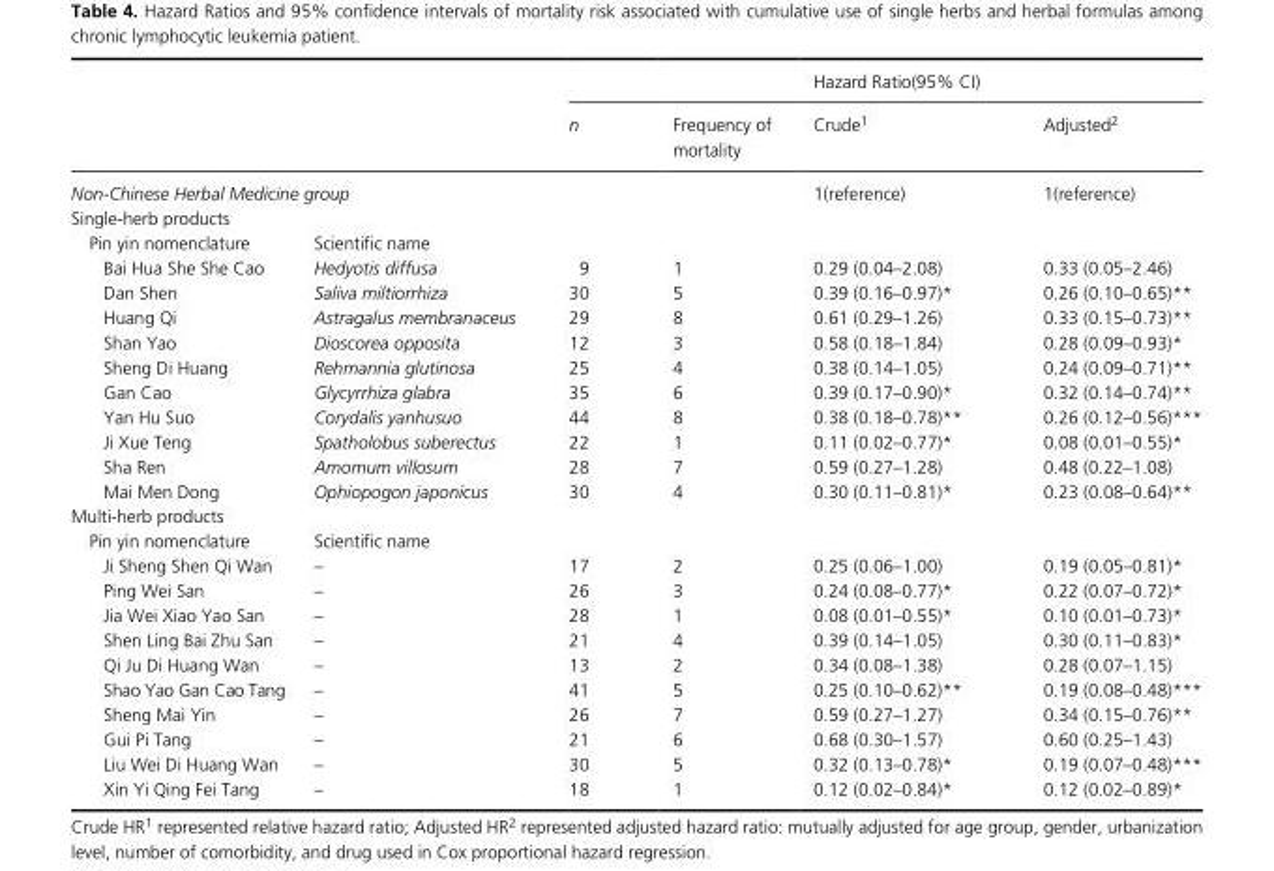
<table><thead><tr><td rowspan="2"></td><td rowspan="2"></td><td rowspan="2">n</td><td rowspan="2">Frequency of mortality</td><td colspan="2">Hazard Ratio(95% CI)</td></tr><tr><td>Crude<sup>1</sup></td><td>Adjusted<sup>2</sup></td></tr></thead><tbody><tr><td colspan="2">Non-Chinese Herbal Medicine group</td><td></td><td></td><td>1(reference)</td><td>1(reference)</td></tr><tr><td colspan="6">Single- herb products</td></tr><tr><td>Pin yin nomenclature</td><td>Scientific name</td><td></td><td></td><td></td><td></td></tr><tr><td>Bai Hua She She Cao</td><td>Hedyotis diffusa</td><td>9</td><td>1</td><td>0.29 (0.04–2.08)</td><td>0.33 (0.05–2.46)</td></tr><tr><td>Dan Shen</td><td>Saliva miltiorrhiza</td><td>30</td><td>5</td><td>0.39 (0.16–0.97)*</td><td>0.26 (0.10–0.65)**</td></tr><tr><td>Huang Qi</td><td>Astragalus membranaceus</td><td>29</td><td>8</td><td>0.61 (0.29–1.26)</td><td>0.33 (0.15–0.73)**</td></tr><tr><td>Shan Yao</td><td>Dioscorea opposita</td><td>12</td><td>3</td><td>0.58 (0.18–1.84)</td><td>0.28 (0.09–0.93)*</td></tr><tr><td>Sheng Di Huang</td><td>Rehmannia glutinosa</td><td>25</td><td>4</td><td>0.38 (0.14–1.05)</td><td>0.24 (0.09–0.71)**</td></tr><tr><td>Gan Cao</td><td>Glycyrrhiza glabra</td><td>35</td><td>6</td><td>0.39 (0.17–0.90)*</td><td>0.32 (0.14–0.74)**</td></tr><tr><td>Yan Hu Suo</td><td>Corydalis yanhusuo</td><td>44</td><td>8</td><td>0.38 (0.18–0.78)**</td><td>0.26 (0.12–0.56)***</td></tr><tr><td>Ji Xue Teng</td><td>Spatholobus suberectus</td><td>22</td><td>1</td><td>0.11 (0.02–0.77)*</td><td>0.08 (0.01–0.55)*</td></tr><tr><td>Sha Ren</td><td>Amomum villosum</td><td>28</td><td>7</td><td>0.59 (0.27–1.28)</td><td>0.48 (0.22–1.08)</td></tr><tr><td>Mai Men Dong</td><td>Ophiopogon japonicus</td><td>30</td><td>4</td><td>0.30 (0.11–0.81)*</td><td>0.23 (0.08–0.64)**</td></tr><tr><td colspan="6">Multi- herb products</td></tr><tr><td>Pin yin nomenclature</td><td>Scientific name</td><td></td><td></td><td></td><td></td></tr><tr><td>Ji Sheng Shen Qi Wan</td><td>–</td><td>17</td><td>2</td><td>0.25 (0.06–1.00)</td><td>0.19 (0.05–0.81)*</td></tr><tr><td>Ping Wei San</td><td>–</td><td>26</td><td>3</td><td>0.24 (0.08–0.77)*</td><td>0.22 (0.07–0.72)*</td></tr><tr><td>Jia Wei Xiao Yao San</td><td>–</td><td>28</td><td>1</td><td>0.08 (0.01–0.55)*</td><td>0.10 (0.01–0.73)*</td></tr><tr><td>Shen Ling Bai Zhu San</td><td>–</td><td>21</td><td>4</td><td>0.39 (0.14–1.05)</td><td>0.30 (0.11–0.83)*</td></tr><tr><td>Qi Ju Di Huang Wan</td><td>–</td><td>13</td><td>2</td><td>0.34 (0.08–1.38)</td><td>0.28 (0.07–1.15)</td></tr><tr><td>Shao Yao Gan Cao Tang</td><td>–</td><td>41</td><td>5</td><td>0.25 (0.10–0.62)**</td><td>0.19 (0.08–0.48)***</td></tr><tr><td>Sheng Mai Yin</td><td>–</td><td>26</td><td>7</td><td>0.59 (0.27–1.27)</td><td>0.34 (0.15–0.76)**</td></tr><tr><td>Gui Pi Tang</td><td>–</td><td>21</td><td>6</td><td>0.68 (0.30–1.57)</td><td>0.60 (0.25–1.43)</td></tr><tr><td>Liu Wei Di Huang Wan</td><td>–</td><td>30</td><td>5</td><td>0.32 (0.13–0.78)*</td><td>0.19 (0.07–0.48)***</td></tr><tr><td>Xin Yi Qing Fei Tang</td><td>–</td><td>18</td><td>1</td><td>0.12 (0.02–0.84)*</td><td>0.12 (0.02–0.89)*</td></tr></tbody></table>